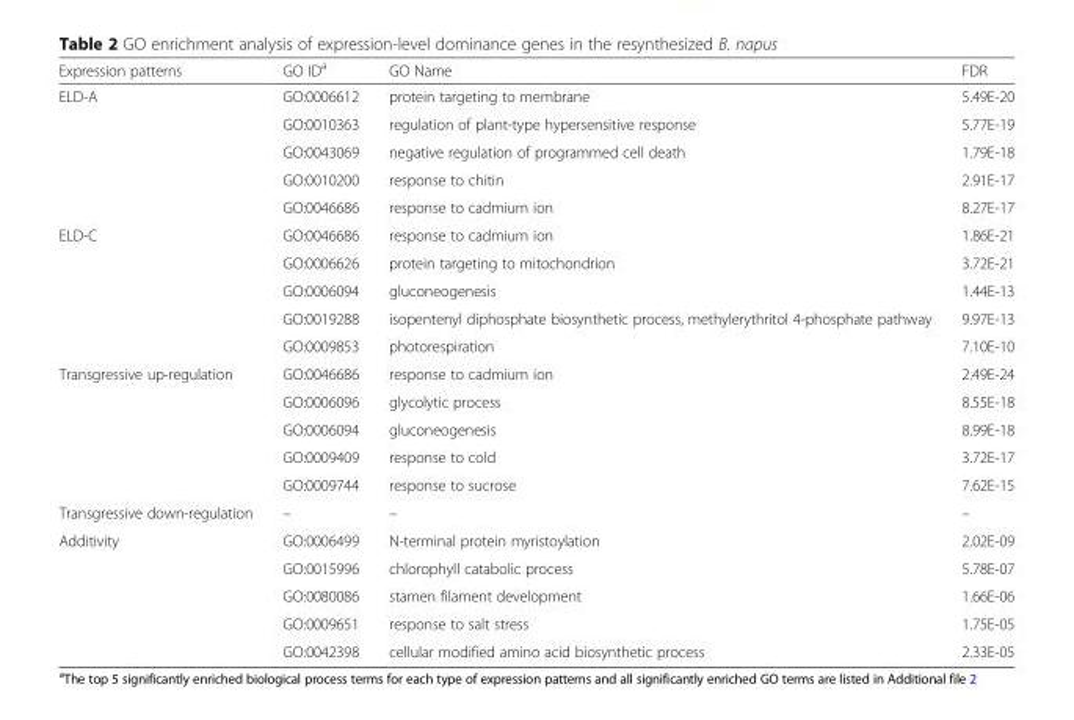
<table><thead><tr><td>Expression patterns</td><td>GO ID<sup>a</sup></td><td>GO Name</td><td>FDR</td></tr></thead><tbody><tr><td rowspan="5">ELD-A</td><td>GO:0006612</td><td>protein targeting to membrane</td><td>5.49E-20</td></tr><tr><td>GO:0010363</td><td>regulation of plant-type hypersensitive response</td><td>5.77E-19</td></tr><tr><td>GO:0043069</td><td>negative regulation of programmed cell death</td><td>1.79E-18</td></tr><tr><td>GO:0010200</td><td>response to chitin</td><td>2.91E-17</td></tr><tr><td>GO:0046686</td><td>response to cadmium ion</td><td>8.27E-17</td></tr><tr><td rowspan="5">ELD-C</td><td>GO:0046686</td><td>response to cadmium ion</td><td>1.86E-21</td></tr><tr><td>GO:0006626</td><td>protein targeting to mitochondrion</td><td>3.72E-21</td></tr><tr><td>GO:0006094</td><td>gluconeogenesis</td><td>1.44E-13</td></tr><tr><td>GO:0019288</td><td>isopentenyl diphosphate biosynthetic process, methylerythritol 4-phosphate pathway</td><td>9.97E-13</td></tr><tr><td>GO:0009853</td><td>photorespiration</td><td>7.10E-10</td></tr><tr><td rowspan="5">Transgressive up-regulation</td><td>GO:0046686</td><td>response to cadmium ion</td><td>2.49E-24</td></tr><tr><td>GO:0006096</td><td>glycolytic process</td><td>8.55E-18</td></tr><tr><td>GO:0006094</td><td>gluconeogenesis</td><td>8.99E-18</td></tr><tr><td>GO:0009409</td><td>response to cold</td><td>3.72E-17</td></tr><tr><td>GO:0009744</td><td>response to sucrose</td><td>7.62E-15</td></tr><tr><td>Transgressive down-regulation</td><td>–</td><td>–</td><td>–</td></tr><tr><td rowspan="5">Additivity</td><td>GO:0006499</td><td>N-terminal protein myristoylation</td><td>2.02E-09</td></tr><tr><td>GO:0015996</td><td>chlorophyll catabolic process</td><td>5.78E-07</td></tr><tr><td>GO:0080086</td><td>stamen filament development</td><td>1.66E-06</td></tr><tr><td>GO:0009651</td><td>response to salt stress</td><td>1.75E-05</td></tr><tr><td>GO:0042398</td><td>cellular modified amino acid biosynthetic process</td><td>2.33E-05</td></tr></tbody></table>